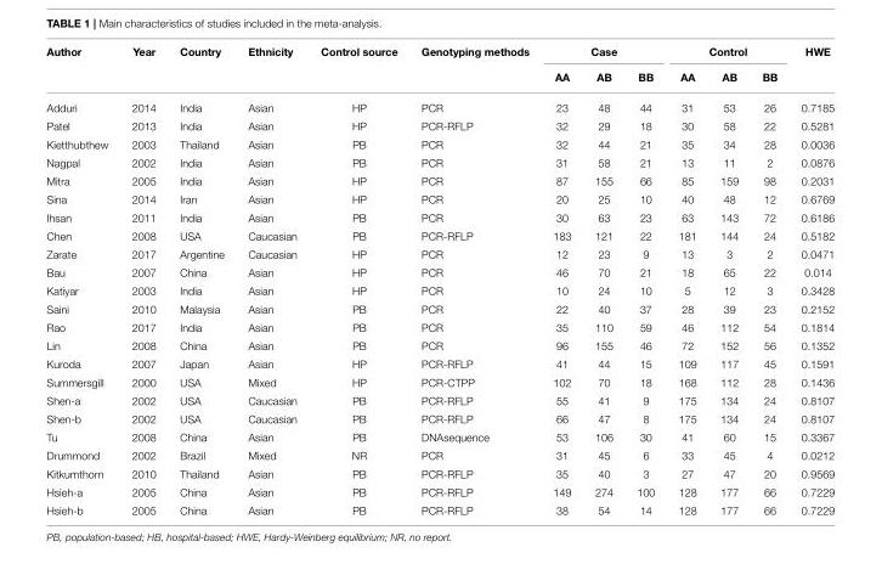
<table><thead><tr><td rowspan="2">Author</td><td rowspan="2">Year</td><td rowspan="2">Country</td><td rowspan="2">Ethnicity</td><td rowspan="2">Control source</td><td rowspan="2">Genotyping methods</td><td colspan="3">Case</td><td colspan="3">Control</td><td rowspan="2">HWE</td></tr><tr><td>AA</td><td>AB</td><td>BB</td><td>AA</td><td>AB</td><td>BB</td></tr></thead><tbody><tr><td>Adduri</td><td>2014</td><td>India</td><td>Asian</td><td>HP</td><td>PCR</td><td>23</td><td>48</td><td>44</td><td>31</td><td>53</td><td>26</td><td>0.7185</td></tr><tr><td>Patel</td><td>2013</td><td>India</td><td>Asian</td><td>HP</td><td>PCR-RFLP</td><td>32</td><td>29</td><td>18</td><td>30</td><td>58</td><td>22</td><td>0.5281</td></tr><tr><td>Kietthubthew</td><td>2003</td><td>Thailand</td><td>Asian</td><td>PB</td><td>PCR</td><td>32</td><td>44</td><td>21</td><td>35</td><td>34</td><td>28</td><td>0.0036</td></tr><tr><td>Nagpal</td><td>2002</td><td>India</td><td>Asian</td><td>PB</td><td>PCR</td><td>31</td><td>58</td><td>21</td><td>13</td><td>11</td><td>2</td><td>0.0876</td></tr><tr><td>Mitra</td><td>2005</td><td>India</td><td>Asian</td><td>HP</td><td>PCR</td><td>87</td><td>155</td><td>66</td><td>85</td><td>159</td><td>98</td><td>0.2031</td></tr><tr><td>Sina</td><td>2014</td><td>Iran</td><td>Asian</td><td>HP</td><td>PCR</td><td>20</td><td>25</td><td>10</td><td>40</td><td>48</td><td>12</td><td>0.6769</td></tr><tr><td>Ihsan</td><td>2011</td><td>India</td><td>Asian</td><td>PB</td><td>PCR</td><td>30</td><td>63</td><td>23</td><td>63</td><td>143</td><td>72</td><td>0.6186</td></tr><tr><td>Chen</td><td>2008</td><td>USA</td><td>Caucasian</td><td>PB</td><td>PCR-RFLP</td><td>183</td><td>121</td><td>22</td><td>181</td><td>144</td><td>24</td><td>0.5182</td></tr><tr><td>Zarate</td><td>2017</td><td>Argentine</td><td>Caucasian</td><td>HP</td><td>PCR</td><td>12</td><td>23</td><td>9</td><td>13</td><td>3</td><td>2</td><td>0.0471</td></tr><tr><td>Bau</td><td>2007</td><td>China</td><td>Asian</td><td>HP</td><td>PCR</td><td>46</td><td>70</td><td>21</td><td>18</td><td>65</td><td>22</td><td>0.014</td></tr><tr><td>Katiyar</td><td>2003</td><td>India</td><td>Asian</td><td>HP</td><td>PCR</td><td>10</td><td>24</td><td>10</td><td>5</td><td>12</td><td>3</td><td>0.3428</td></tr><tr><td>Saini</td><td>2010</td><td>Malaysia</td><td>Asian</td><td>PB</td><td>PCR</td><td>22</td><td>40</td><td>37</td><td>28</td><td>39</td><td>23</td><td>0.2152</td></tr><tr><td>Rao</td><td>2017</td><td>India</td><td>Asian</td><td>PB</td><td>PCR</td><td>35</td><td>110</td><td>59</td><td>46</td><td>112</td><td>54</td><td>0.1814</td></tr><tr><td>Lin</td><td>2008</td><td>China</td><td>Asian</td><td>PB</td><td>PCR</td><td>96</td><td>155</td><td>46</td><td>72</td><td>152</td><td>56</td><td>0.1352</td></tr><tr><td>Kuroda</td><td>2007</td><td>Japan</td><td>Asian</td><td>HP</td><td>PCR-RFLP</td><td>41</td><td>44</td><td>15</td><td>109</td><td>117</td><td>45</td><td>0.1591</td></tr><tr><td>Summersgill</td><td>2000</td><td>USA</td><td>Mixed</td><td>HP</td><td>PCR-CTPP</td><td>102</td><td>70</td><td>18</td><td>168</td><td>112</td><td>28</td><td>0.1436</td></tr><tr><td>Shen-a</td><td>2002</td><td>USA</td><td>Caucasian</td><td>PB</td><td>PCR-RFLP</td><td>55</td><td>41</td><td>9</td><td>175</td><td>134</td><td>24</td><td>0.8107</td></tr><tr><td>Shen-b</td><td>2002</td><td>USA</td><td>Caucasian</td><td>PB</td><td>PCR-RFLP</td><td>66</td><td>47</td><td>8</td><td>175</td><td>134</td><td>24</td><td>0.8107</td></tr><tr><td>Tu</td><td>2008</td><td>China</td><td>Asian</td><td>PB</td><td>DNAsequence</td><td>53</td><td>106</td><td>30</td><td>41</td><td>60</td><td>15</td><td>0.3367</td></tr><tr><td>Drummond</td><td>2002</td><td>Brazil</td><td>Mixed</td><td>NR</td><td>PCR</td><td>31</td><td>45</td><td>6</td><td>33</td><td>45</td><td>4</td><td>0.0212</td></tr><tr><td>Kitkumthorn</td><td>2010</td><td>Thailand</td><td>Asian</td><td>PB</td><td>PCR-RFLP</td><td>35</td><td>40</td><td>3</td><td>27</td><td>47</td><td>20</td><td>0.9569</td></tr><tr><td>Hsieh-a</td><td>2005</td><td>China</td><td>Asian</td><td>PB</td><td>PCR-RFLP</td><td>149</td><td>274</td><td>100</td><td>128</td><td>177</td><td>66</td><td>0.7229</td></tr><tr><td>Hsieh-b</td><td>2005</td><td>China</td><td>Asian</td><td>PB</td><td>PCR-RFLP</td><td>38</td><td>54</td><td>14</td><td>128</td><td>177</td><td>66</td><td>0.7229</td></tr></tbody></table>